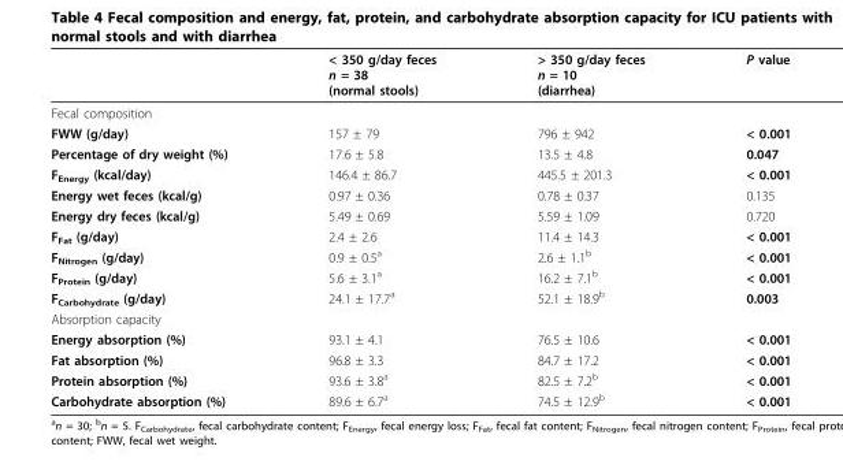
<table><thead><tr><td></td><td>&lt; 350 g/day feces n = 38 (normal stools)</td><td>&gt; 350 g/day feces n = 10 (diarrhea)</td><td>P value</td></tr></thead><tbody><tr><td colspan="4">Fecal composition</td></tr><tr><td>FWW (g/day)</td><td>157 ± 79</td><td>796 ± 942</td><td>&lt; 0.001</td></tr><tr><td>Percentage of dry weight (%)</td><td>17.6 ± 5.8</td><td>13.5 ± 4.8</td><td>0.047</td></tr><tr><td>F<sub>Energy</sub> (kcal/day)</td><td>146.4 ± 86.7</td><td>445.5 ± 201.3</td><td>&lt; 0.001</td></tr><tr><td>Energy wet feces (kcal/g)</td><td>0.97 ± 0.36</td><td>0.78 ± 0.37</td><td>0.135</td></tr><tr><td>Energy dry feces (kcal/g)</td><td>5.49 ± 0.69</td><td>5.59 ± 1.09</td><td>0.720</td></tr><tr><td>F<sub>Fat</sub> (g/day)</td><td>2.4 ± 2.6</td><td>11.4 ± 14.3</td><td>&lt; 0.001</td></tr><tr><td>F<sub>Nitrogen</sub> (g/day)</td><td>0.9 ± 0.5<sup>a</sup></td><td>2.6 ± 1.1<sup>b</sup></td><td>&lt; 0.001</td></tr><tr><td>F<sub>Protein</sub> (g/day)</td><td>5.6 ± 3.1<sup>a</sup></td><td>16.2 ± 7.1<sup>b</sup></td><td>&lt; 0.001</td></tr><tr><td>F<sub>Carbohydrate</sub> (g/day)</td><td>24.1 ± 17.7<sup>a</sup></td><td>52.1 ± 18.9<sup>b</sup></td><td>0.003</td></tr><tr><td colspan="4">Absorption capacity</td></tr><tr><td>Energy absorption (%)</td><td>93.1 ± 4.1</td><td>76.5 ± 10.6</td><td>&lt; 0.001</td></tr><tr><td>Fat absorption (%)</td><td>96.8 ± 3.3</td><td>84.7 ± 17.2</td><td>&lt; 0.001</td></tr><tr><td>Protein absorption (%)</td><td>93.6 ± 3.8<sup>a</sup></td><td>82.5 ± 7.2<sup>b</sup></td><td>&lt; 0.001</td></tr><tr><td>Carbohydrate absorption (%)</td><td>89.6 ± 6.7<sup>a</sup></td><td>74.5 ± 12.9<sup>b</sup></td><td>&lt; 0.001</td></tr></tbody></table>